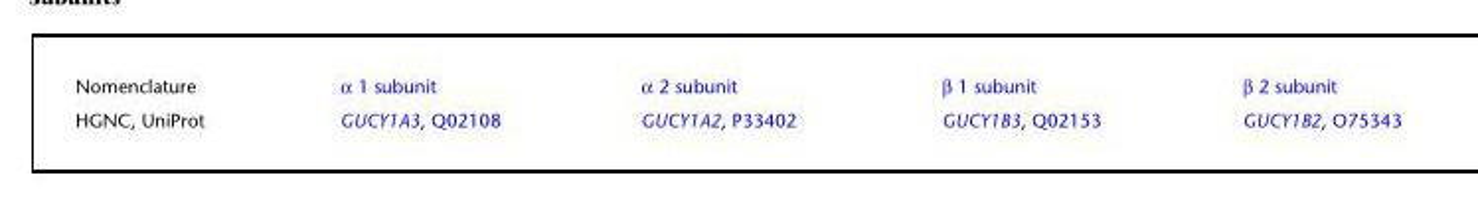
<table><tbody><tr><td>Nomenclature</td><td>α 1 subunit</td><td>α 2 subunit</td><td>β 1 subunit</td><td>β 2 subunit</td></tr><tr><td>HGNC, UniProt</td><td>GUCY1A3, Q02108</td><td>GUCY1A2, P33402</td><td>GUCY1B3, Q02153</td><td>GUCY1B2, O75343</td></tr></tbody></table>